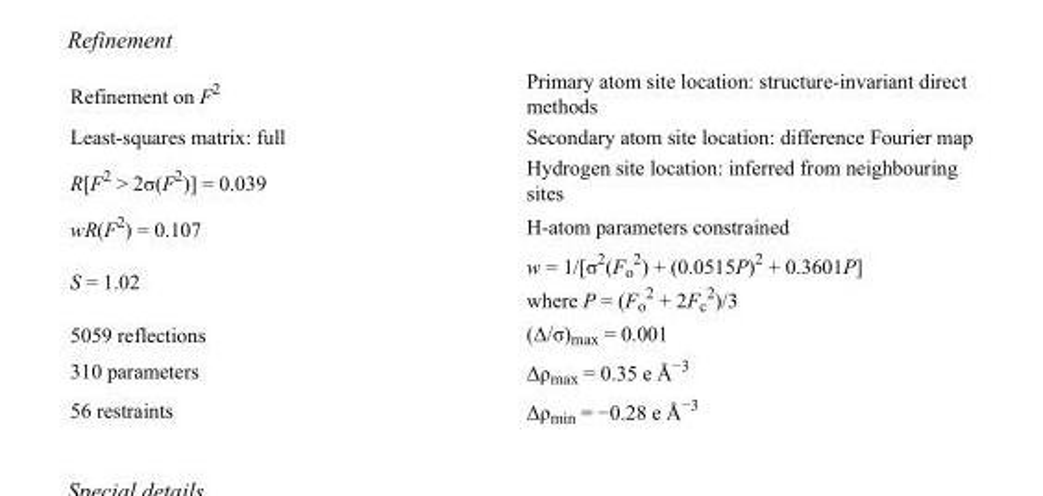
<table><tbody><tr><td>Refinement on F<sup>2</sup></td><td>Primary atom site location: structure-invariant direct methods</td></tr><tr><td>Least-squares matrix: full</td><td>Secondary atom site location: difference Fourier map</td></tr><tr><td>R[F<sup>2</sup> &gt; 2σ(F<sup>2</sup>)] = 0.039</td><td>Hydrogen site location: inferred from neighbouring sites</td></tr><tr><td>wR(F<sup>2</sup>) = 0.107</td><td>H-atom parameters constrained</td></tr><tr><td>S = 1.02</td><td>w = 1/[σ<sup>2</sup>(F<sub>o</sub> <sup>2</sup>) + (0.0515P)<sup>2</sup> + 0.3601P] where P = (F<sub>o</sub> <sup>2</sup> + 2F<sub>c</sub> <sup>2</sup>)/3</td></tr><tr><td>5059 reflections</td><td>(Δ/σ)<sub>max</sub> = 0.001</td></tr><tr><td>310 parameters</td><td>Δρ<sub>max</sub> = 0.35 e Å<sup>−3</sup></td></tr><tr><td>56 restraints</td><td>Δρ<sub>min</sub> = −0.28 e Å<sup>−3</sup></td></tr></tbody></table>